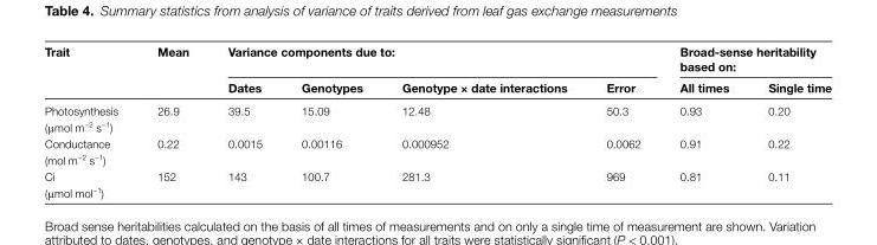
<table><thead><tr><td rowspan="2">Trait</td><td rowspan="2">Mean</td><td colspan="4">Variance components due to:</td><td colspan="2">Broad-sense heritability based on:</td></tr><tr><td>Dates</td><td>Genotypes</td><td>Genotype × date interactions</td><td>Error</td><td>All times</td><td>Single time</td></tr></thead><tbody><tr><td>Photosynthesis (μmol m<sup>−2</sup> s<sup>−1</sup>)</td><td>26.9</td><td>39.5</td><td>15.09</td><td>12.48</td><td>50.3</td><td>0.93</td><td>0.20</td></tr><tr><td>Conductance (mol m<sup>−2</sup> s<sup>−1</sup>)</td><td>0.22</td><td>0.0015</td><td>0.00116</td><td>0.000952</td><td>0.0062</td><td>0.91</td><td>0.22</td></tr><tr><td>Ci (μmol mol<sup>−1</sup>)</td><td>152</td><td>143</td><td>100.7</td><td>281.3</td><td>969</td><td>0.81</td><td>0.11</td></tr></tbody></table>